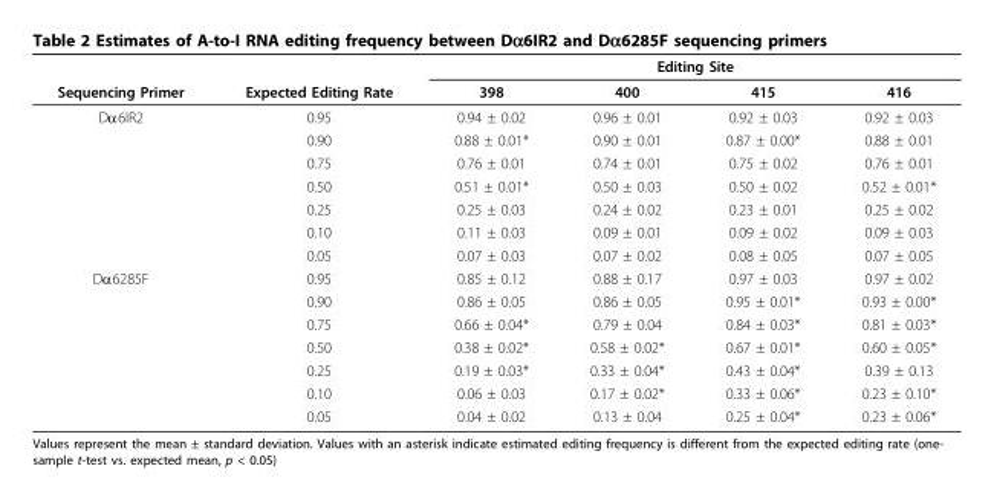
<table><thead><tr><td rowspan="2">Sequencing Primer</td><td rowspan="2">Expected Editing Rate</td><td colspan="4">Editing Site</td></tr><tr><td>398</td><td>400</td><td>415</td><td>416</td></tr></thead><tbody><tr><td rowspan="7">Dα6IR2</td><td>0.95</td><td>0.94 ± 0.02</td><td>0.96 ± 0.01</td><td>0.92 ± 0.03</td><td>0.92 ± 0.03</td></tr><tr><td>0.90</td><td>0.88 ± 0.01*</td><td>0.90 ± 0.01</td><td>0.87 ± 0.00*</td><td>0.88 ± 0.01</td></tr><tr><td>0.75</td><td>0.76 ± 0.01</td><td>0.74 ± 0.01</td><td>0.75 ± 0.02</td><td>0.76 ± 0.01</td></tr><tr><td>0.50</td><td>0.51 ± 0.01*</td><td>0.50 ± 0.03</td><td>0.50 ± 0.02</td><td>0.52 ± 0.01*</td></tr><tr><td>0.25</td><td>0.25 ± 0.03</td><td>0.24 ± 0.02</td><td>0.23 ± 0.01</td><td>0.25 ± 0.02</td></tr><tr><td>0.10</td><td>0.11 ± 0.03</td><td>0.09 ± 0.01</td><td>0.09 ± 0.02</td><td>0.09 ± 0.03</td></tr><tr><td>0.05</td><td>0.07 ± 0.03</td><td>0.07 ± 0.02</td><td>0.08 ± 0.05</td><td>0.07 ± 0.05</td></tr><tr><td rowspan="7">Dα6285F</td><td>0.95</td><td>0.85 ± 0.12</td><td>0.88 ± 0.17</td><td>0.97 ± 0.03</td><td>0.97 ± 0.02</td></tr><tr><td>0.90</td><td>0.86 ± 0.05</td><td>0.86 ± 0.05</td><td>0.95 ± 0.01*</td><td>0.93 ± 0.00*</td></tr><tr><td>0.75</td><td>0.66 ± 0.04*</td><td>0.79 ± 0.04</td><td>0.84 ± 0.03*</td><td>0.81 ± 0.03*</td></tr><tr><td>0.50</td><td>0.38 ± 0.02*</td><td>0.58 ± 0.02*</td><td>0.67 ± 0.01*</td><td>0.60 ± 0.05*</td></tr><tr><td>0.25</td><td>0.19 ± 0.03*</td><td>0.33 ± 0.04*</td><td>0.43 ± 0.04*</td><td>0.39 ± 0.13</td></tr><tr><td>0.10</td><td>0.06 ± 0.03</td><td>0.17 ± 0.02*</td><td>0.33 ± 0.06*</td><td>0.23 ± 0.10*</td></tr><tr><td>0.05</td><td>0.04 ± 0.02</td><td>0.13 ± 0.04</td><td>0.25 ± 0.04*</td><td>0.23 ± 0.06*</td></tr></tbody></table>